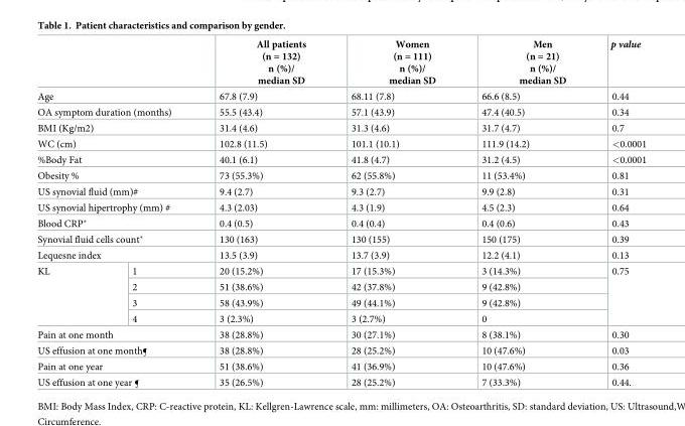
<table><thead><tr><td></td><td></td><td>All patients (n = 132) n (%)/ median SD</td><td>Women (n = 111) n (%)/ median SD</td><td>Men (n = 21) n (%)/ median SD</td><td>p value</td></tr></thead><tbody><tr><td colspan="2">Age</td><td>67.8 (7.9)</td><td>68.11 (7.8)</td><td>66.6 (8.5)</td><td>0.44</td></tr><tr><td colspan="2">OA symptom duration (months)</td><td>55.5 (43.4)</td><td>57.1 (43.9)</td><td>47.4 (40.5)</td><td>0.34</td></tr><tr><td colspan="2">BMI (Kg/m2)</td><td>31.4 (4.6)</td><td>31.3 (4.6)</td><td>31.7 (4.7)</td><td>0.7</td></tr><tr><td colspan="2">WC (cm)</td><td>102.8 (11.5)</td><td>101.1 (10.1)</td><td>111.9 (14.2)</td><td>&lt;0.0001</td></tr><tr><td colspan="2">%Body Fat</td><td>40.1 (6.1)</td><td>41.8 (4.7)</td><td>31.2 (4.5)</td><td>&lt;0.0001</td></tr><tr><td colspan="2">Obesity %</td><td>73 (55.3%)</td><td>62 (55.8%)</td><td>11 (53.4%)</td><td>0.81</td></tr><tr><td colspan="2">US synovial fluid (mm)#</td><td>9.4 (2.7)</td><td>9.3 (2.7)</td><td>9.9 (2.8)</td><td>0.31</td></tr><tr><td colspan="2">US synovial hipertrophy (mm) #</td><td>4.3 (2.03)</td><td>4.3 (1.9)</td><td>4.5 (2.3)</td><td>0.64</td></tr><tr><td colspan="2">Blood CRP*</td><td>0.4 (0.5)</td><td>0.4 (0.4)</td><td>0.4 (0.6)</td><td>0.43</td></tr><tr><td colspan="2">Synovial fluid cells count*</td><td>130 (163)</td><td>130 (155)</td><td>150 (175)</td><td>0.39</td></tr><tr><td colspan="2">Lequesne index</td><td>13.5 (3.9)</td><td>13.7 (3.9)</td><td>12.2 (4.1)</td><td>0.13</td></tr><tr><td rowspan="4">KL</td><td>1</td><td>20 (15.2%)</td><td>17 (15.3%)</td><td>3 (14.3%)</td><td rowspan="4">0.75</td></tr><tr><td>2</td><td>51 (38.6%)</td><td>42 (37.8%)</td><td>9 (42.8%)</td></tr><tr><td>3</td><td>58 (43.9%)</td><td>49 (44.1%)</td><td>9 (42.8%)</td></tr><tr><td>4</td><td>3 (2.3%)</td><td>3 (2.7%)</td><td>0</td></tr><tr><td colspan="2">Pain at one month</td><td>38 (28.8%)</td><td>30 (27.1%)</td><td>8 (38.1%)</td><td>0.30</td></tr><tr><td colspan="2">US effusion at one month¶</td><td>38 (28.8%)</td><td>28 (25.2%)</td><td>10 (47.6%)</td><td>0.03</td></tr><tr><td colspan="2">Pain at one year</td><td>51 (38.6%)</td><td>41 (36.9%)</td><td>10 (47.6%)</td><td>0.36</td></tr><tr><td colspan="2">US effusion at one year ¶</td><td>35 (26.5%)</td><td>28 (25.2%)</td><td>7 (33.3%)</td><td>0.44.</td></tr></tbody></table>